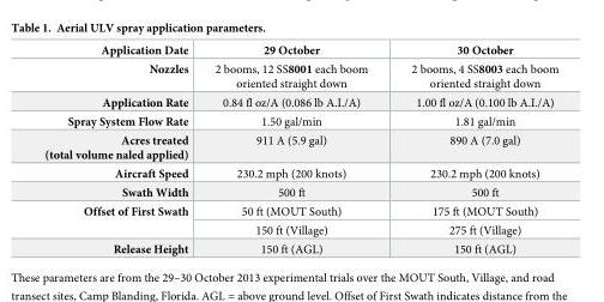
<table><thead><tr><td>Application Date</td><td>29 October</td><td>30 October</td></tr></thead><tbody><tr><td>Nozzles</td><td>2 booms, 12 SS8001 each boom oriented straight down</td><td>2 booms, 4 SS8003 each boom oriented straight down</td></tr><tr><td>Application Rate</td><td>0.84 fl oz/A (0.086 lb A.I./A)</td><td>1.00 fl oz/A (0.100 lb A.I./A)</td></tr><tr><td>Spray System Flow Rate</td><td>1.50 gal/min</td><td>1.81 gal/min</td></tr><tr><td>Acres treated (total volume naled applied)</td><td>911 A (5.9 gal)</td><td>890 A (7.0 gal)</td></tr><tr><td>Aircraft Speed</td><td>230.2 mph (200 knots)</td><td>230.2 mph (200 knots)</td></tr><tr><td>Swath Width</td><td>500 ft</td><td>500 ft</td></tr><tr><td rowspan="2">Offset of First Swath</td><td>50 ft (MOUT South)</td><td>175 ft (MOUT South)</td></tr><tr><td>150 ft (Village)</td><td>275 ft (Village)</td></tr><tr><td>Release Height</td><td>150 ft (AGL)</td><td>150 ft (AGL)</td></tr></tbody></table>